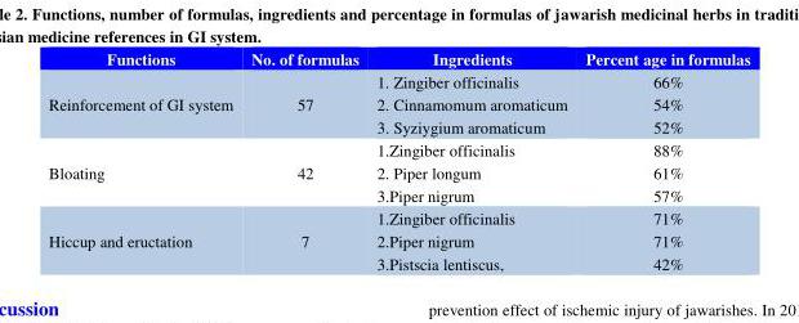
<table><thead><tr><td>Functions</td><td>No. of formulas</td><td>Ingredients</td><td>Percent age in formulas</td></tr></thead><tbody><tr><td>Reinforcement of GI system</td><td>57</td><td>1. Zingiber officinalis 2. Cinnamomum aromaticum 3. Syziygium aromaticum</td><td>66% 54% 52%</td></tr><tr><td>Bloating</td><td>42</td><td>1.Zingiber officinalis 2. Piper longum 3.Piper nigrum</td><td>88% 61% 57%</td></tr><tr><td>Hiccup and eructation</td><td>7</td><td>1.Zingiber officinalis 2.Piper nigrum 3.Pistscia lentiscus,</td><td>71% 71% 42%</td></tr></tbody></table>